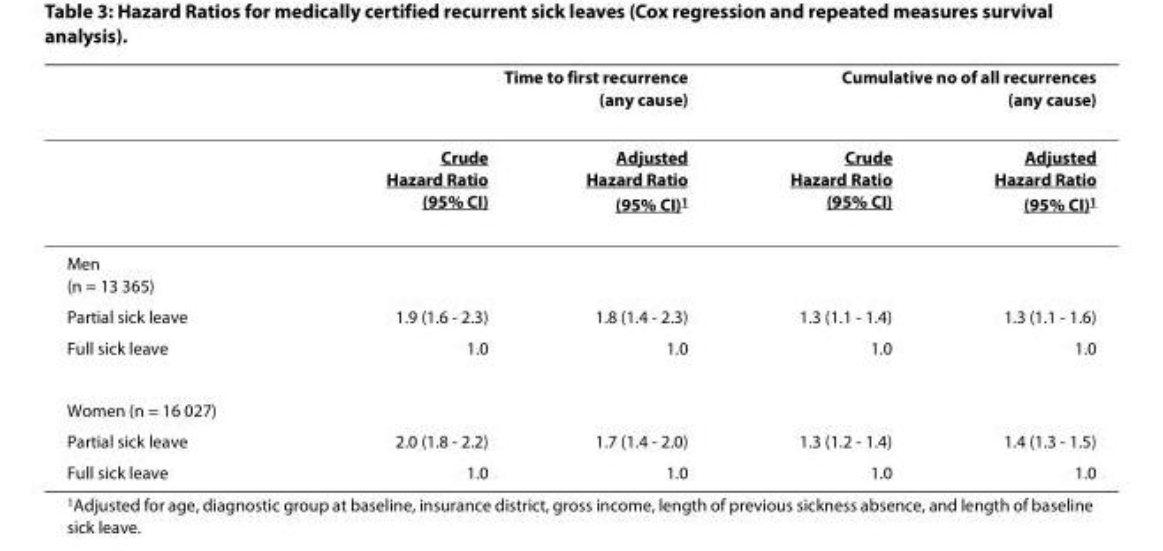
<table><thead><tr><td rowspan="2"></td><td colspan="2">Time to first recurrence (any cause)</td><td colspan="2">Cumulative no of all recurrences (any cause)</td></tr><tr><td>Crude Hazard Ratio (95% CI)</td><td>Adjusted Hazard Ratio (95% CI)<sup>1</sup></td><td>Crude Hazard Ratio (95% CI)</td><td>Adjusted Hazard Ratio (95% CI)<sup>1</sup></td></tr></thead><tbody><tr><td colspan="5">Men (n = 13 365)</td></tr><tr><td>Partial sick leave</td><td>1.9 (1.6 - 2.3)</td><td>1.8 (1.4 - 2.3)</td><td>1.3 (1.1 - 1.4)</td><td>1.3 (1.1 - 1.6)</td></tr><tr><td>Full sick leave</td><td>1.0</td><td>1.0</td><td>1.0</td><td>1.0</td></tr><tr><td colspan="5">Women (n = 16 027)</td></tr><tr><td>Partial sick leave</td><td>2.0 (1.8 - 2.2)</td><td>1.7 (1.4 - 2.0)</td><td>1.3 (1.2 - 1.4)</td><td>1.4 (1.3 - 1.5)</td></tr><tr><td>Full sick leave</td><td>1.0</td><td>1.0</td><td>1.0</td><td>1.0</td></tr></tbody></table>